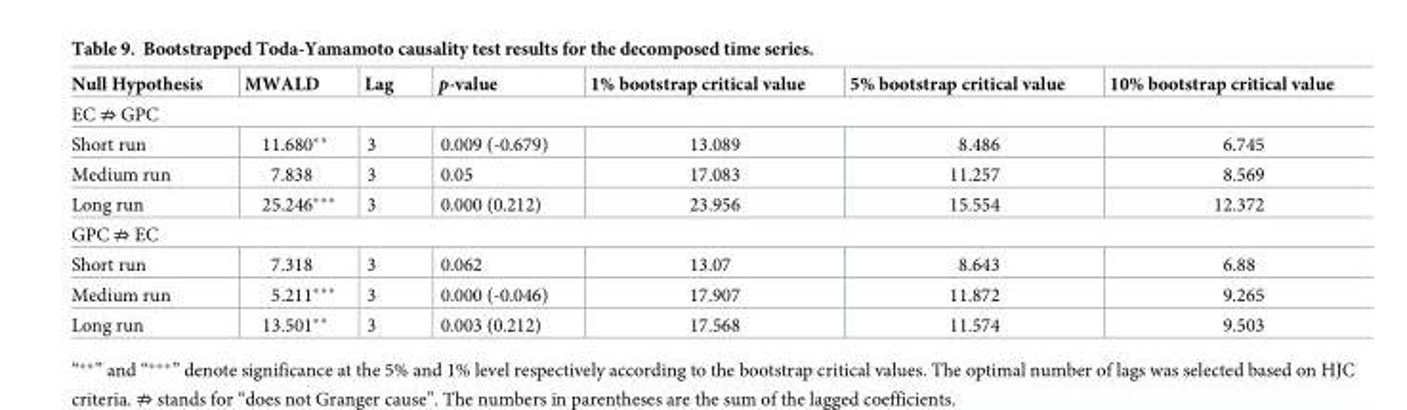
<table><thead><tr><td>Null Hypothesis</td><td>MWALD</td><td>Lag</td><td>p-value</td><td>1% bootstrap critical value</td><td>5% bootstrap critical value</td><td>10% bootstrap critical value</td></tr></thead><tbody><tr><td colspan="7">EC ⇏ GPC</td></tr><tr><td>Short run</td><td>11.680**</td><td>3</td><td>0.009 (-0.679)</td><td>13.089</td><td>8.486</td><td>6.745</td></tr><tr><td>Medium run</td><td>7.838</td><td>3</td><td>0.05</td><td>17.083</td><td>11.257</td><td>8.569</td></tr><tr><td>Long run</td><td>25.246***</td><td>3</td><td>0.000 (0.212)</td><td>23.956</td><td>15.554</td><td>12.372</td></tr><tr><td colspan="7">GPC ⇏ EC</td></tr><tr><td>Short run</td><td>7.318</td><td>3</td><td>0.062</td><td>13.07</td><td>8.643</td><td>6.88</td></tr><tr><td>Medium run</td><td>5.211***</td><td>3</td><td>0.000 (-0.046)</td><td>17.907</td><td>11.872</td><td>9.265</td></tr><tr><td>Long run</td><td>13.501**</td><td>3</td><td>0.003 (0.212)</td><td>17.568</td><td>11.574</td><td>9.503</td></tr></tbody></table>